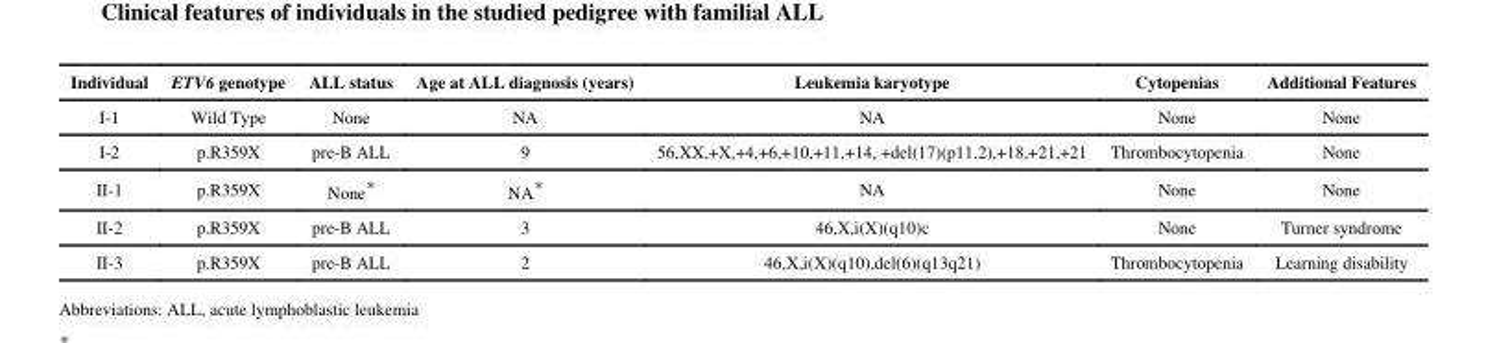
<table><thead><tr><td>Individual</td><td>ETV6 genotype</td><td>ALL status</td><td>Age at ALL diagnosis (years)</td><td>Leukemia karyotype</td><td>Cytopenias</td><td>Additional Features</td></tr></thead><tbody><tr><td>I-1</td><td>Wild Type</td><td>None</td><td>NA</td><td>NA</td><td>None</td><td>None</td></tr><tr><td>I-2</td><td>p.R359X</td><td>pre-B ALL</td><td>9</td><td>56,XX,+X,+4,+6,+10,+11,+14, +del(17)(p11.2),+18,+21,+21</td><td>Thrombocytopenia</td><td>None</td></tr><tr><td>II-1</td><td>p.R359X</td><td>None*</td><td>NA*</td><td>NA</td><td>None</td><td>None</td></tr><tr><td>II-2</td><td>p.R359X</td><td>pre-B ALL</td><td>3</td><td>46,X,i(X)(q10)c</td><td>None</td><td>Turner syndrome</td></tr><tr><td>II-3</td><td>p.R359X</td><td>pre-B ALL</td><td>2</td><td>46,X,i(X)(q10),del(6)(q13q21)</td><td>Thrombocytopenia</td><td>Learning disability</td></tr></tbody></table>